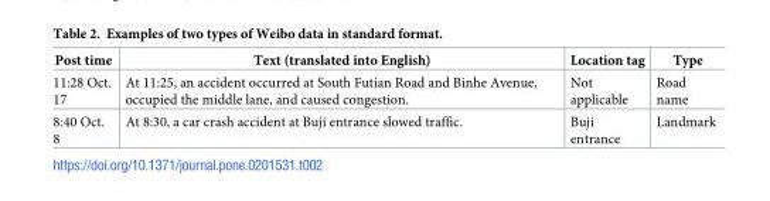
<table><thead><tr><td>Post time</td><td>Text (translated into English)</td><td>Location tag</td><td>Type</td></tr></thead><tbody><tr><td>11:28 Oct. 17</td><td>At 11:25, an accident occurred at South Futian Road and Binhe Avenue, occupied the middle lane, and caused congestion.</td><td>Not applicable</td><td>Road name</td></tr><tr><td>8:40 Oct. 8</td><td>At 8:30, a car crash accident at Buji entrance slowed traffic.</td><td>Buji entrance</td><td>Landmark</td></tr></tbody></table>